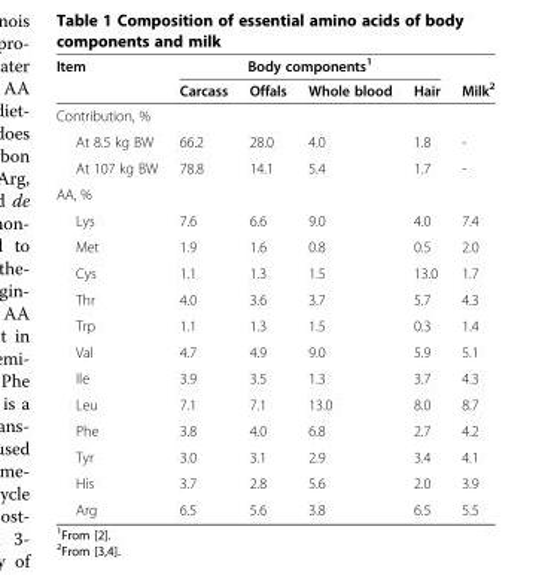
<table><thead><tr><td rowspan="2">Item</td><td colspan="4">Body components<sup>1</sup></td><td rowspan="2">Milk<sup>2</sup></td></tr><tr><td>Carcass</td><td>Offals</td><td>Whole blood</td><td>Hair</td></tr></thead><tbody><tr><td colspan="6">Contribution, %</td></tr><tr><td>At 8.5 kg BW</td><td>66.2</td><td>28.0</td><td>4.0</td><td>1.8</td><td>-</td></tr><tr><td>At 107 kg BW</td><td>78.8</td><td>14.1</td><td>5.4</td><td>1.7</td><td>-</td></tr><tr><td colspan="6">AA, %</td></tr><tr><td>Lys</td><td>7.6</td><td>6.6</td><td>9.0</td><td>4.0</td><td>7.4</td></tr><tr><td>Met</td><td>1.9</td><td>1.6</td><td>0.8</td><td>0.5</td><td>2.0</td></tr><tr><td>Cys</td><td>1.1</td><td>1.3</td><td>1.5</td><td>13.0</td><td>1.7</td></tr><tr><td>Thr</td><td>4.0</td><td>3.6</td><td>3.7</td><td>5.7</td><td>4.3</td></tr><tr><td>Trp</td><td>1.1</td><td>1.3</td><td>1.5</td><td>0.3</td><td>1.4</td></tr><tr><td>Val</td><td>4.7</td><td>4.9</td><td>9.0</td><td>5.9</td><td>5.1</td></tr><tr><td>Ile</td><td>3.9</td><td>3.5</td><td>1.3</td><td>3.7</td><td>4.3</td></tr><tr><td>Leu</td><td>7.1</td><td>7.1</td><td>13.0</td><td>8.0</td><td>8.7</td></tr><tr><td>Phe</td><td>3.8</td><td>4.0</td><td>6.8</td><td>2.7</td><td>4.2</td></tr><tr><td>Tyr</td><td>3.0</td><td>3.1</td><td>2.9</td><td>3.4</td><td>4.1</td></tr><tr><td>His</td><td>3.7</td><td>2.8</td><td>5.6</td><td>2.0</td><td>3.9</td></tr><tr><td>Arg</td><td>6.5</td><td>5.6</td><td>3.8</td><td>6.5</td><td>5.5</td></tr></tbody></table>